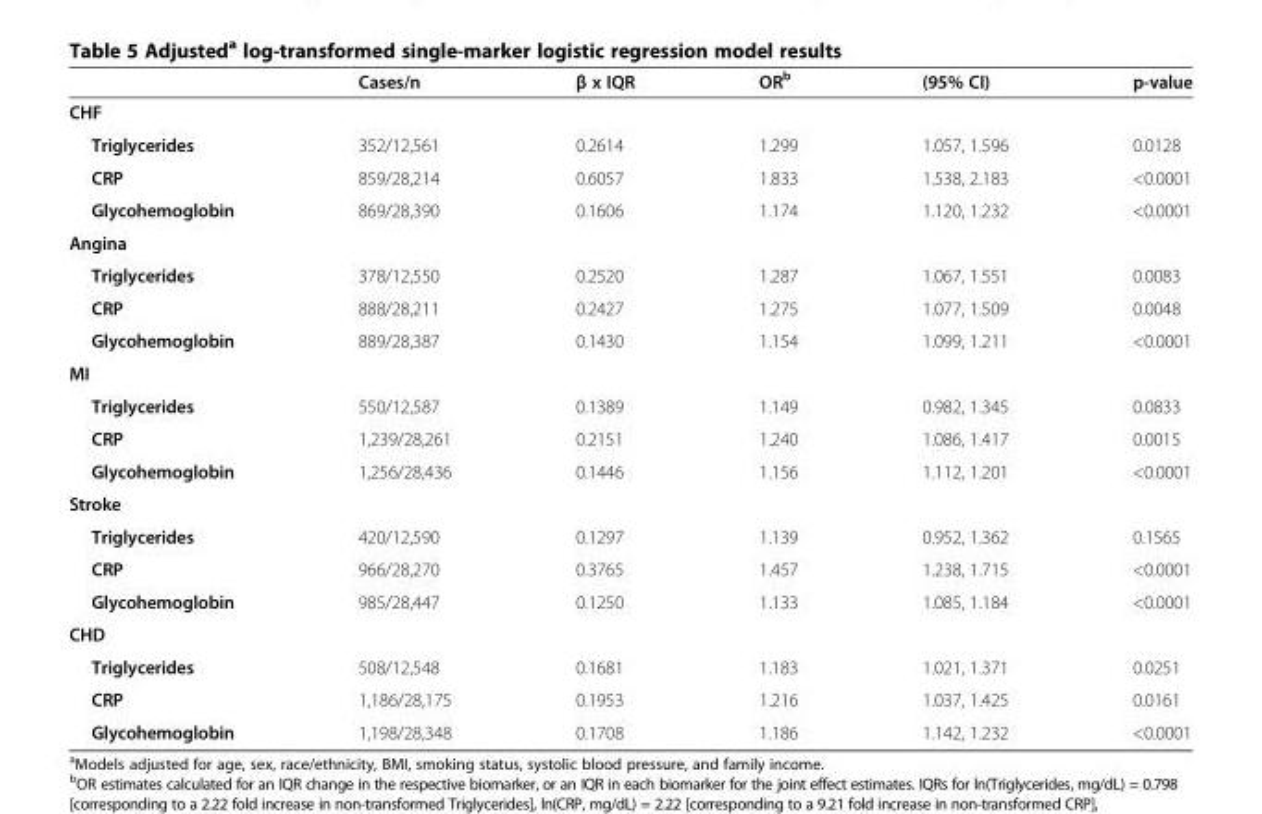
<table><thead><tr><td></td><td>Cases/n</td><td>β x IQR</td><td>OR<sup>b</sup></td><td>(95% CI)</td><td>p-value</td></tr></thead><tbody><tr><td colspan="6">CHF</td></tr><tr><td>Triglycerides</td><td>352/12,561</td><td>0.2614</td><td>1.299</td><td>1.057, 1.596</td><td>0.0128</td></tr><tr><td>CRP</td><td>859/28,214</td><td>0.6057</td><td>1.833</td><td>1.538, 2.183</td><td>&lt;0.0001</td></tr><tr><td>Glycohemoglobin</td><td>869/28,390</td><td>0.1606</td><td>1.174</td><td>1.120, 1.232</td><td>&lt;0.0001</td></tr><tr><td colspan="6">Angina</td></tr><tr><td>Triglycerides</td><td>378/12,550</td><td>0.2520</td><td>1.287</td><td>1.067, 1.551</td><td>0.0083</td></tr><tr><td>CRP</td><td>888/28,211</td><td>0.2427</td><td>1.275</td><td>1.077, 1.509</td><td>0.0048</td></tr><tr><td>Glycohemoglobin</td><td>889/28,387</td><td>0.1430</td><td>1.154</td><td>1.099, 1.211</td><td>&lt;0.0001</td></tr><tr><td colspan="6">MI</td></tr><tr><td>Triglycerides</td><td>550/12,587</td><td>0.1389</td><td>1.149</td><td>0.982, 1.345</td><td>0.0833</td></tr><tr><td>CRP</td><td>1,239/28,261</td><td>0.2151</td><td>1.240</td><td>1.086, 1.417</td><td>0.0015</td></tr><tr><td>Glycohemoglobin</td><td>1,256/28,436</td><td>0.1446</td><td>1.156</td><td>1.112, 1.201</td><td>&lt;0.0001</td></tr><tr><td colspan="6">Stroke</td></tr><tr><td>Triglycerides</td><td>420/12,590</td><td>0.1297</td><td>1.139</td><td>0.952, 1.362</td><td>0.1565</td></tr><tr><td>CRP</td><td>966/28,270</td><td>0.3765</td><td>1.457</td><td>1.238, 1.715</td><td>&lt;0.0001</td></tr><tr><td>Glycohemoglobin</td><td>985/28,447</td><td>0.1250</td><td>1.133</td><td>1.085, 1.184</td><td>&lt;0.0001</td></tr><tr><td colspan="6">CHD</td></tr><tr><td>Triglycerides</td><td>508/12,548</td><td>0.1681</td><td>1.183</td><td>1.021, 1.371</td><td>0.0251</td></tr><tr><td>CRP</td><td>1,186/28,175</td><td>0.1953</td><td>1.216</td><td>1.037, 1.425</td><td>0.0161</td></tr><tr><td>Glycohemoglobin</td><td>1,198/28,348</td><td>0.1708</td><td>1.186</td><td>1.142, 1.232</td><td>&lt;0.0001</td></tr></tbody></table>